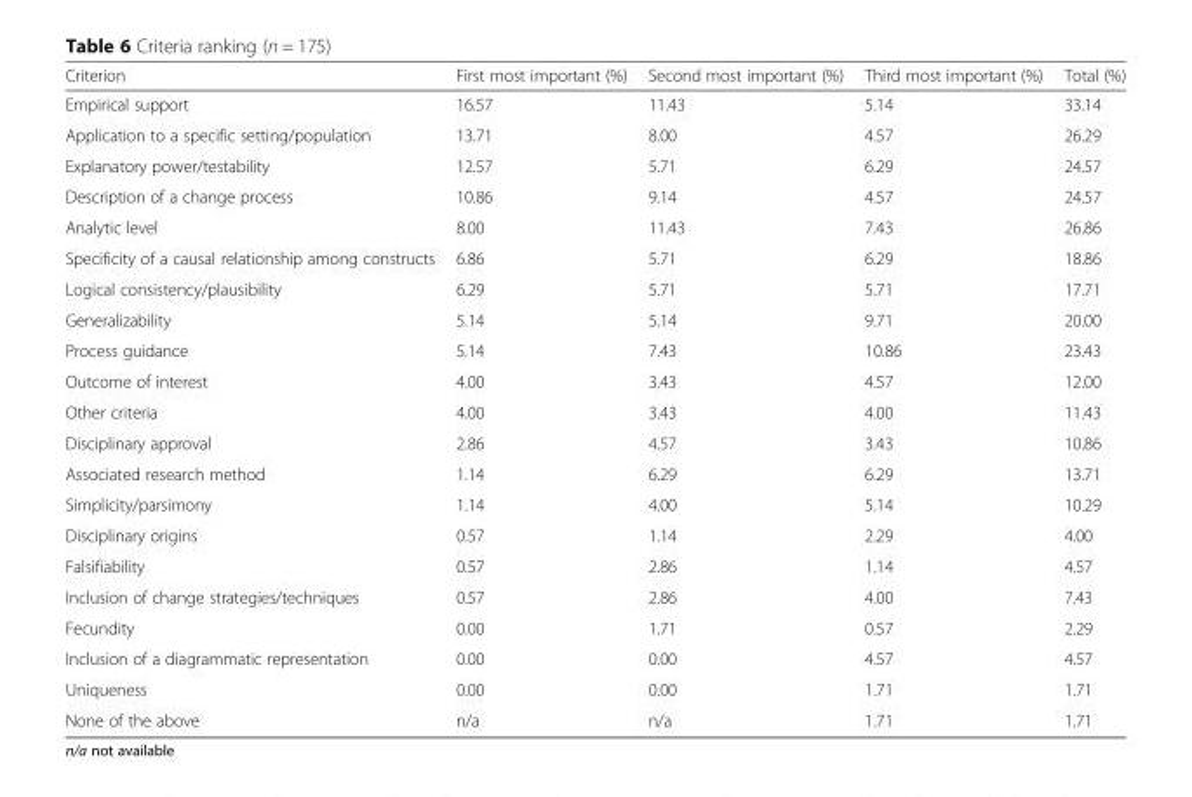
<table><thead><tr><td>Criterion</td><td>First most important (%)</td><td>Second most important (%)</td><td>Third most important (%)</td><td>Total (%)</td></tr></thead><tbody><tr><td>Empirical support</td><td>16.57</td><td>11.43</td><td>5.14</td><td>33.14</td></tr><tr><td>Application to a specific setting/population</td><td>13.71</td><td>8.00</td><td>4.57</td><td>26.29</td></tr><tr><td>Explanatory power/testability</td><td>12.57</td><td>5.71</td><td>6.29</td><td>24.57</td></tr><tr><td>Description of a change process</td><td>10.86</td><td>9.14</td><td>4.57</td><td>24.57</td></tr><tr><td>Analytic level</td><td>8.00</td><td>11.43</td><td>7.43</td><td>26.86</td></tr><tr><td>Specificity of a causal relationship among constructs</td><td>6.86</td><td>5.71</td><td>6.29</td><td>18.86</td></tr><tr><td>Logical consistency/plausibility</td><td>6.29</td><td>5.71</td><td>5.71</td><td>17.71</td></tr><tr><td>Generalizability</td><td>5.14</td><td>5.14</td><td>9.71</td><td>20.00</td></tr><tr><td>Process guidance</td><td>5.14</td><td>7.43</td><td>10.86</td><td>23.43</td></tr><tr><td>Outcome of interest</td><td>4.00</td><td>3.43</td><td>4.57</td><td>12.00</td></tr><tr><td>Other criteria</td><td>4.00</td><td>3.43</td><td>4.00</td><td>11.43</td></tr><tr><td>Disciplinary approval</td><td>2.86</td><td>4.57</td><td>3.43</td><td>10.86</td></tr><tr><td>Associated research method</td><td>1.14</td><td>6.29</td><td>6.29</td><td>13.71</td></tr><tr><td>Simplicity/parsimony</td><td>1.14</td><td>4.00</td><td>5.14</td><td>10.29</td></tr><tr><td>Disciplinary origins</td><td>0.57</td><td>1.14</td><td>2.29</td><td>4.00</td></tr><tr><td>Falsifiability</td><td>0.57</td><td>2.86</td><td>1.14</td><td>4.57</td></tr><tr><td>Inclusion of change strategies/techniques</td><td>0.57</td><td>2.86</td><td>4.00</td><td>7.43</td></tr><tr><td>Fecundity</td><td>0.00</td><td>1.71</td><td>0.57</td><td>2.29</td></tr><tr><td>Inclusion of a diagrammatic representation</td><td>0.00</td><td>0.00</td><td>4.57</td><td>4.57</td></tr><tr><td>Uniqueness</td><td>0.00</td><td>0.00</td><td>1.71</td><td>1.71</td></tr><tr><td>None of the above</td><td>n/a</td><td>n/a</td><td>1.71</td><td>1.71</td></tr></tbody></table>